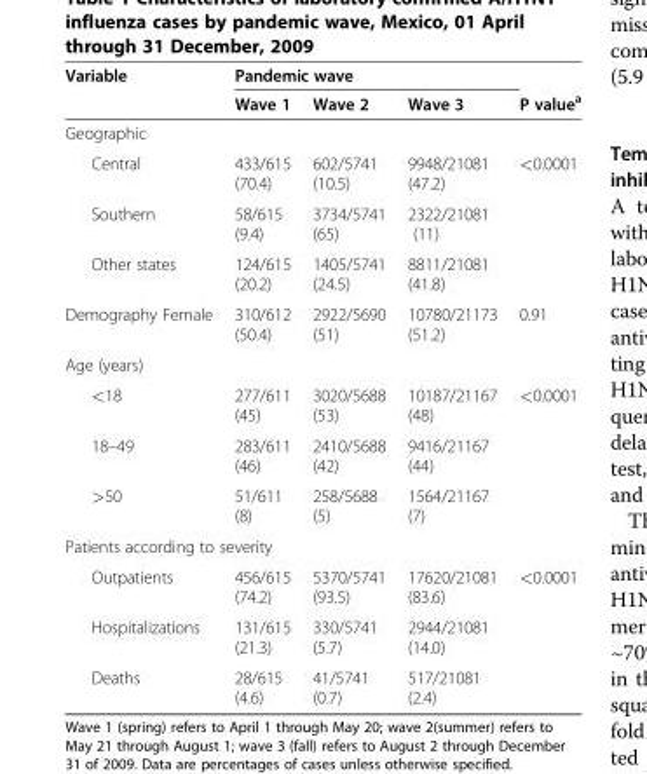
<table><thead><tr><td rowspan="2">Variable</td><td colspan="3">Pandemic wave</td><td rowspan="2">P value<sup>a</sup></td></tr><tr><td>Wave 1</td><td>Wave 2</td><td>Wave 3</td></tr></thead><tbody><tr><td colspan="5">Geographic</td></tr><tr><td>Central</td><td>433/615 (70.4)</td><td>602/5741 (10.5)</td><td>9948/21081 (47.2)</td><td>&lt;0.0001</td></tr><tr><td>Southern</td><td>58/615 (9.4)</td><td>3734/5741 (65)</td><td>2322/21081 (11)</td><td></td></tr><tr><td>Other states</td><td>124/615 (20.2)</td><td>1405/5741 (24.5)</td><td>8811/21081 (41.8)</td><td></td></tr><tr><td>Demography Female</td><td>310/612 (50.4)</td><td>2922/5690 (51)</td><td>10780/21173 (51.2)</td><td>0.91</td></tr><tr><td colspan="5">Age (years)</td></tr><tr><td>&lt;18</td><td>277/611 (45)</td><td>3020/5688 (53)</td><td>10187/21167 (48)</td><td>&lt;0.0001</td></tr><tr><td>18–49</td><td>283/611 (46)</td><td>2410/5688 (42)</td><td>9416/21167 (44)</td><td></td></tr><tr><td>&gt;50</td><td>51/611 (8)</td><td>258/5688 (5)</td><td>1564/21167 (7)</td><td></td></tr><tr><td colspan="5">Patients according to severity</td></tr><tr><td>Outpatients</td><td>456/615 (74.2)</td><td>5370/5741 (93.5)</td><td>17620/21081 (83.6)</td><td>&lt;0.0001</td></tr><tr><td>Hospitalizations</td><td>131/615 (21.3)</td><td>330/5741 (5.7)</td><td>2944/21081 (14.0)</td><td></td></tr><tr><td>Deaths</td><td>28/615 (4.6)</td><td>41/5741 (0.7)</td><td>517/21081 (2.4)</td><td></td></tr></tbody></table>